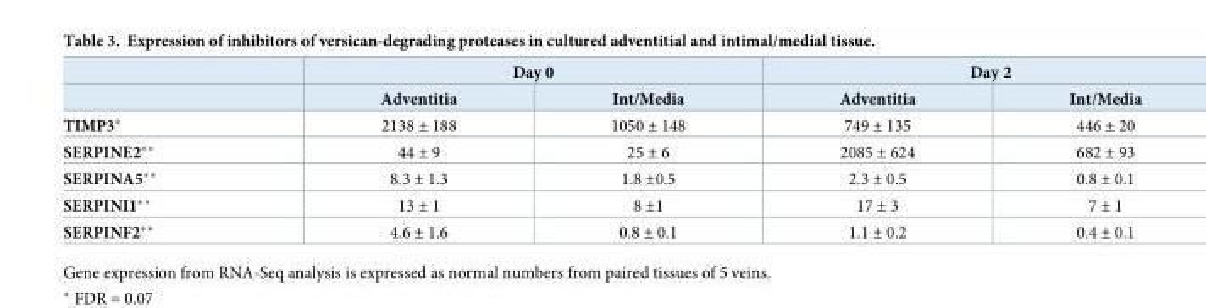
<table><thead><tr><td rowspan="2"></td><td colspan="2">Day 0</td><td colspan="2">Day 2</td></tr><tr><td>Adventitia</td><td>Int/Media</td><td>Adventitia</td><td>Int/Media</td></tr></thead><tbody><tr><td>TIMP3*</td><td>2138 ± 188</td><td>1050 ± 148</td><td>749 ± 135</td><td>446 ± 20</td></tr><tr><td>SERPINE2**</td><td>44 ± 9</td><td>25 ± 6</td><td>2085 ± 624</td><td>682 ± 93</td></tr><tr><td>SERPINA5**</td><td>8.3 ± 1.3</td><td>1.8 ±0.5</td><td>2.3 ± 0.5</td><td>0.8 ± 0.1</td></tr><tr><td>SERPINI1**</td><td>13 ± 1</td><td>8 ±1</td><td>17 ± 3</td><td>7 ± 1</td></tr><tr><td>SERPINF2**</td><td>4.6 ± 1.6</td><td>0.8 ± 0.1</td><td>1.1 ± 0.2</td><td>0.4 ± 0.1</td></tr></tbody></table>